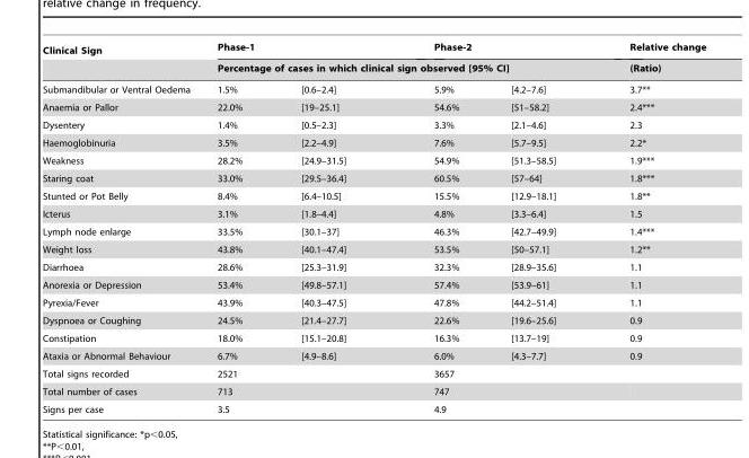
<table><thead><tr><td rowspan="3">Clinical Sign Submandibular or Ventral Oedema</td><td colspan="2">Phase-1</td><td colspan="2">Phase-2</td><td rowspan="3">Relative change (Ratio) 3.7**</td></tr><tr><td colspan="4">Percentage of cases in which clinical sign observed [95% CI]</td></tr><tr><td>1.5%</td><td>[0.6–2.4]</td><td>5.9%</td><td>[4.2–7.6]</td></tr></thead><tbody><tr><td>Anaemia or Pallor</td><td>22.0%</td><td>[19–25.1]</td><td>54.6%</td><td>[51–58.2]</td><td>2.4***</td></tr><tr><td>Dysentery</td><td>1.4%</td><td>[0.5–2.3]</td><td>3.3%</td><td>[2.1–4.6]</td><td>2.3</td></tr><tr><td>Haemoglobinuria</td><td>3.5%</td><td>[2.2–4.9]</td><td>7.6%</td><td>[5.7–9.5]</td><td>2.2*</td></tr><tr><td>Weakness</td><td>28.2%</td><td>[24.9–31.5]</td><td>54.9%</td><td>[51.3–58.5]</td><td>1.9***</td></tr><tr><td>Staring coat</td><td>33.0%</td><td>[29.5–36.4]</td><td>60.5%</td><td>[57–64]</td><td>1.8***</td></tr><tr><td>Stunted or Pot Belly</td><td>8.4%</td><td>[6.4–10.5]</td><td>15.5%</td><td>[12.9–18.1]</td><td>1.8**</td></tr><tr><td>Icterus</td><td>3.1%</td><td>[1.8–4.4]</td><td>4.8%</td><td>[3.3–6.4]</td><td>1.5</td></tr><tr><td>Lymph node enlarge</td><td>33.5%</td><td>[30.1–37]</td><td>46.3%</td><td>[42.7–49.9]</td><td>1.4***</td></tr><tr><td>Weight loss</td><td>43.8%</td><td>[40.1–47.4]</td><td>53.5%</td><td>[50–57.1]</td><td>1.2**</td></tr><tr><td>Diarrhoea</td><td>28.6%</td><td>[25.3–31.9]</td><td>32.3%</td><td>[28.9–35.6]</td><td>1.1</td></tr><tr><td>Anorexia or Depression</td><td>53.4%</td><td>[49.8–57.1]</td><td>57.4%</td><td>[53.9–61]</td><td>1.1</td></tr><tr><td>Pyrexia/Fever</td><td>43.9%</td><td>[40.3–47.5]</td><td>47.8%</td><td>[44.2–51.4]</td><td>1.1</td></tr><tr><td>Dyspnoea or Coughing</td><td>24.5%</td><td>[21.4–27.7]</td><td>22.6%</td><td>[19.6–25.6]</td><td>0.9</td></tr><tr><td>Constipation</td><td>18.0%</td><td>[15.1–20.8]</td><td>16.3%</td><td>[13.7–19]</td><td>0.9</td></tr><tr><td>Ataxia or Abnormal Behaviour</td><td>6.7%</td><td>[4.9–8.6]</td><td>6.0%</td><td>[4.3–7.7]</td><td>0.9</td></tr><tr><td>Total signs recorded</td><td colspan="2">2521</td><td colspan="2">3657</td><td></td></tr><tr><td>Total number of cases</td><td colspan="2">713</td><td colspan="2">747</td><td></td></tr><tr><td>Signs per case</td><td colspan="2">3.5</td><td colspan="2">4.9</td><td></td></tr></tbody></table>